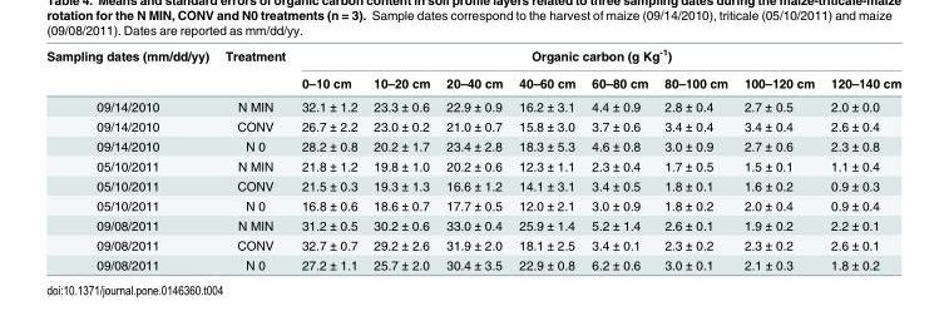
<table><thead><tr><td rowspan="2">Sampling dates (mm/dd/yy)</td><td rowspan="2">Treatment</td><td colspan="8">Organic carbon (g Kg<sup>-1</sup>)</td></tr><tr><td>0–10 cm</td><td>10–20 cm</td><td>20–40 cm</td><td>40–60 cm</td><td>60–80 cm</td><td>80–100 cm</td><td>100–120 cm</td><td>120–140 cm</td></tr></thead><tbody><tr><td>09/14/2010</td><td>N MIN</td><td>32.1 ± 1.2</td><td>23.3 ± 0.6</td><td>22.9 ± 0.9</td><td>16.2 ± 3.1</td><td>4.4 ± 0.9</td><td>2.8 ± 0.4</td><td>2.7 ± 0.5</td><td>2.0 ± 0.0</td></tr><tr><td>09/14/2010</td><td>CONV</td><td>26.7 ± 2.2</td><td>23.0 ± 0.2</td><td>21.0 ± 0.7</td><td>15.8 ± 3.0</td><td>3.7 ± 0.6</td><td>3.4 ± 0.4</td><td>3.4 ± 0.4</td><td>2.6 ± 0.4</td></tr><tr><td>09/14/2010</td><td>N 0</td><td>28.2 ± 0.8</td><td>20.2 ± 1.7</td><td>23.4 ± 2.8</td><td>18.3 ± 5.3</td><td>4.6 ± 0.8</td><td>3.0 ± 0.9</td><td>2.7 ± 0.6</td><td>2.3 ± 0.8</td></tr><tr><td>05/10/2011</td><td>N MIN</td><td>21.8 ± 1.2</td><td>19.8 ± 1.0</td><td>20.2 ± 0.6</td><td>12.3 ± 1.1</td><td>2.3 ± 0.4</td><td>1.7 ± 0.5</td><td>1.5 ± 0.1</td><td>1.1 ± 0.4</td></tr><tr><td>05/10/2011</td><td>CONV</td><td>21.5 ± 0.3</td><td>19.3 ± 1.3</td><td>16.6 ± 1.2</td><td>14.1 ± 3.1</td><td>3.4 ± 0.5</td><td>1.8 ± 0.1</td><td>1.6 ± 0.2</td><td>0.9 ± 0.3</td></tr><tr><td>05/10/2011</td><td>N 0</td><td>16.8 ± 0.6</td><td>18.6 ± 0.7</td><td>17.7 ± 0.5</td><td>12.0 ± 2.1</td><td>3.0 ± 0.9</td><td>1.8 ± 0.2</td><td>2.0 ± 0.4</td><td>0.9 ± 0.4</td></tr><tr><td>09/08/2011</td><td>N MIN</td><td>31.2 ± 0.5</td><td>30.2 ± 0.6</td><td>33.0 ± 0.4</td><td>25.9 ± 1.4</td><td>5.2 ± 1.4</td><td>2.6 ± 0.1</td><td>1.9 ± 0.2</td><td>2.2 ± 0.1</td></tr><tr><td>09/08/2011</td><td>CONV</td><td>32.7 ± 0.7</td><td>29.2 ± 2.6</td><td>31.9 ± 2.0</td><td>18.1 ± 2.5</td><td>3.4 ± 0.1</td><td>2.3 ± 0.2</td><td>2.3 ± 0.2</td><td>2.6 ± 0.1</td></tr><tr><td>09/08/2011</td><td>N 0</td><td>27.2 ± 1.1</td><td>25.7 ± 2.0</td><td>30.4 ± 3.5</td><td>22.9 ± 0.8</td><td>6.2 ± 0.6</td><td>3.0 ± 0.1</td><td>2.1 ± 0.3</td><td>1.8 ± 0.2</td></tr></tbody></table>